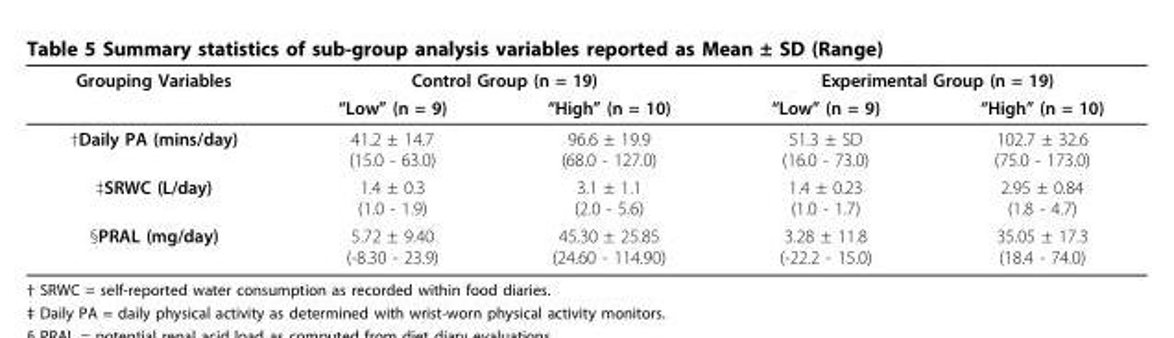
<table><thead><tr><td rowspan="2">Grouping Variables</td><td colspan="2">Control Group (n = 19)</td><td colspan="2">Experimental Group (n = 19)</td></tr><tr><td>“Low” (n = 9)</td><td>“High” (n = 10)</td><td>“Low” (n = 9)</td><td>“High” (n = 10)</td></tr></thead><tbody><tr><td>†Daily PA (mins/day)</td><td>41.2 ± 14.7 (15.0 - 63.0)</td><td>96.6 ± 19.9 (68.0 - 127.0)</td><td>51.3 ± SD (16.0 - 73.0)</td><td>102.7 ± 32.6 (75.0 - 173.0)</td></tr><tr><td>‡SRWC (L/day)</td><td>1.4 ± 0.3 (1.0 - 1.9)</td><td>3.1 ± 1.1 (2.0 - 5.6)</td><td>1.4 ± 0.23 (1.0 - 1.7)</td><td>2.95 ± 0.84 (1.8 - 4.7)</td></tr><tr><td>§PRAL (mg/day)</td><td>5.72 ± 9.40 (-8.30 - 23.9)</td><td>45.30 ± 25.85 (24.60 - 114.90)</td><td>3.28 ± 11.8 (-22.2 - 15.0)</td><td>35.05 ± 17.3 (18.4 - 74.0)</td></tr></tbody></table>